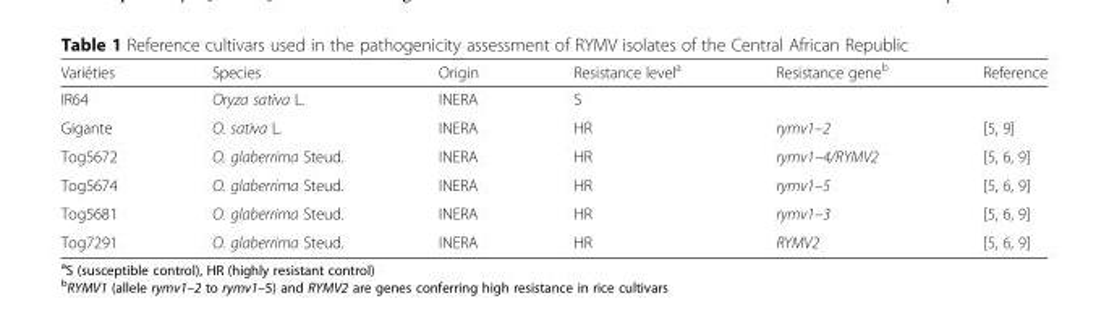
<table><thead><tr><td>Variéties</td><td>Species</td><td>Origin</td><td>Resistance level<sup>a</sup></td><td>Resistance gene<sup>b</sup></td><td>Reference</td></tr></thead><tbody><tr><td>IR64</td><td>Oryza sativa L.</td><td>INERA</td><td>S</td><td></td><td></td></tr><tr><td>Gigante</td><td>O. sativa L.</td><td>INERA</td><td>HR</td><td>rymv1–2</td><td>[5, 9]</td></tr><tr><td>Tog5672</td><td>O. glaberrima Steud.</td><td>INERA</td><td>HR</td><td>rymv1–4/RYMV2</td><td>[5, 6, 9]</td></tr><tr><td>Tog5674</td><td>O. glaberrima Steud.</td><td>INERA</td><td>HR</td><td>rymv1–5</td><td>[5, 6, 9]</td></tr><tr><td>Tog5681</td><td>O. glaberrima Steud.</td><td>INERA</td><td>HR</td><td>rymv1–3</td><td>[5, 6, 9]</td></tr><tr><td>Tog7291</td><td>O. glaberrima Steud.</td><td>INERA</td><td>HR</td><td>RYMV2</td><td>[5, 6, 9]</td></tr></tbody></table>